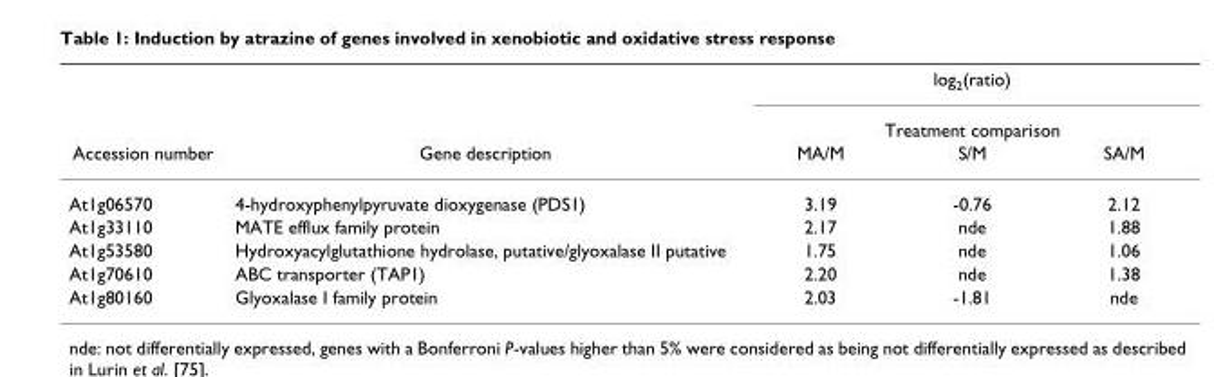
<table><thead><tr><td rowspan="3">Accession number</td><td rowspan="3">Gene description</td><td rowspan="2" colspan="3">log<sub>2</sub>(ratio) Treatment comparison</td></tr><tr></tr><tr><td>MA/M</td><td>S/M</td><td>SA/M</td></tr></thead><tbody><tr><td>At1g06570</td><td>4-hydroxyphenylpyruvate dioxygenase (PDS1)</td><td>3.19</td><td>-0.76</td><td>2.12</td></tr><tr><td>At1g33110</td><td>MATE efflux family protein</td><td>2.17</td><td>nde</td><td>1.88</td></tr><tr><td>At1g53580</td><td>Hydroxyacylglutathione hydrolase, putative/glyoxalase II putative</td><td>1.75</td><td>nde</td><td>1.06</td></tr><tr><td>At1g70610</td><td>ABC transporter (TAP1)</td><td>2.20</td><td>nde</td><td>1.38</td></tr><tr><td>At1g80160</td><td>Glyoxalase I family protein</td><td>2.03</td><td>-1.81</td><td>nde</td></tr></tbody></table>